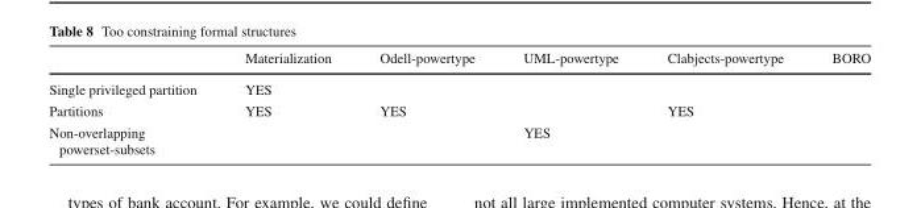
<table><thead><tr><td></td><td>Materialization</td><td>Odell-powertype</td><td>UML-powertype</td><td>Clabjects-powertype</td><td>BORO</td></tr></thead><tbody><tr><td>Single privileged partition</td><td>YES</td><td></td><td></td><td></td><td></td></tr><tr><td>Partitions</td><td>YES</td><td>YES</td><td></td><td>YES</td><td></td></tr><tr><td>Non-overlapping powerset-subsets</td><td></td><td></td><td>YES</td><td></td><td></td></tr></tbody></table>